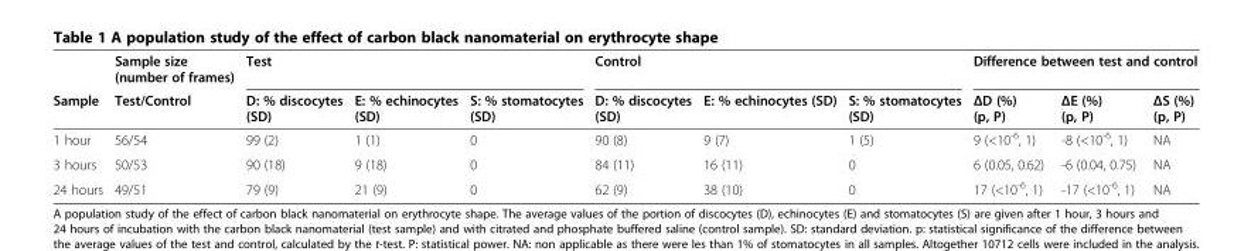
<table><thead><tr><td rowspan="2">Sample</td><td rowspan="2">Sample size (number of frames) Test/Control</td><td colspan="3">Test</td><td colspan="3">Control</td><td colspan="3">Difference between test and control</td></tr><tr><td>D: % discocytes (SD)</td><td>E: % echinocytes (SD)</td><td>S: % stomatocytes (SD)</td><td>D: % discocytes (SD)</td><td>E: % echinocytes (SD)</td><td>S: % stomatocytes (SD)</td><td>ΔD (%) (p, P)</td><td>ΔE (%) (p, P)</td><td>ΔS (%) (p, P)</td></tr></thead><tbody><tr><td>1 hour</td><td>56/54</td><td>99 (2)</td><td>1 (1)</td><td>0</td><td>90 (8)</td><td>9 (7)</td><td>1 (5)</td><td>9 (&lt;10<sup>-6</sup>, 1)</td><td>-8 (&lt;10<sup>-6</sup>, 1)</td><td>NA</td></tr><tr><td>3 hours</td><td>50/53</td><td>90 (18)</td><td>9 (18)</td><td>0</td><td>84 (11)</td><td>16 (11)</td><td>0</td><td>6 (0.05, 0.62)</td><td>-6 (0.04, 0.75)</td><td>NA</td></tr><tr><td>24 hours</td><td>49/51</td><td>79 (9)</td><td>21 (9)</td><td>0</td><td>62 (9)</td><td>38 (10)</td><td>0</td><td>17 (&lt;10<sup>-6</sup>, 1)</td><td>-17 (&lt;10<sup>-6</sup>, 1)</td><td>NA</td></tr></tbody></table>